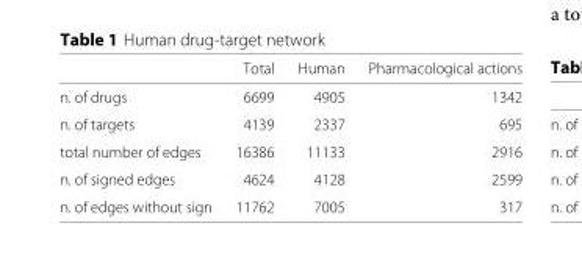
<table><thead><tr><td></td><td>Total</td><td>Human</td><td>Pharmacological actions</td></tr></thead><tbody><tr><td>n. of drugs</td><td>6699</td><td>4905</td><td>1342</td></tr><tr><td>n. of targets</td><td>4139</td><td>2337</td><td>695</td></tr><tr><td>total number of edges</td><td>16386</td><td>11133</td><td>2916</td></tr><tr><td>n. of signed edges</td><td>4624</td><td>4128</td><td>2599</td></tr><tr><td>n. of edges without sign</td><td>11762</td><td>7005</td><td>317</td></tr></tbody></table>